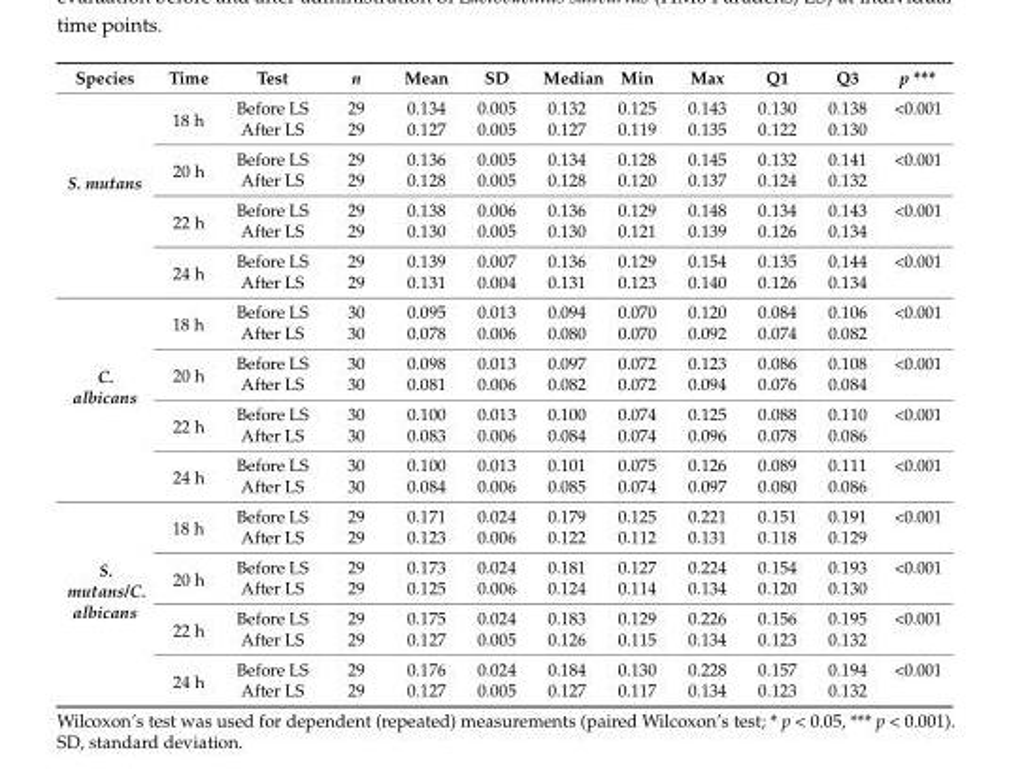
<table><thead><tr><td>Species</td><td>Time</td><td>Test</td><td>n</td><td>Mean</td><td>SD</td><td>Median</td><td>Min</td><td>Max</td><td>Q1</td><td>Q3</td><td>p ***</td></tr></thead><tbody><tr><td rowspan="8">S. mutans</td><td rowspan="2">18 h</td><td>Before LS</td><td>29</td><td>0.134</td><td>0.005</td><td>0.132</td><td>0.125</td><td>0.143</td><td>0.130</td><td>0.138</td><td>&lt;0.001</td></tr><tr><td>After LS</td><td>29</td><td>0.127</td><td>0.005</td><td>0.127</td><td>0.119</td><td>0.135</td><td>0.122</td><td>0.130</td><td></td></tr><tr><td rowspan="2">20 h</td><td>Before LS</td><td>29</td><td>0.136</td><td>0.005</td><td>0.134</td><td>0.128</td><td>0.145</td><td>0.132</td><td>0.141</td><td>&lt;0.001</td></tr><tr><td>After LS</td><td>29</td><td>0.128</td><td>0.005</td><td>0.128</td><td>0.120</td><td>0.137</td><td>0.124</td><td>0.132</td><td></td></tr><tr><td rowspan="2">22 h</td><td>Before LS</td><td>29</td><td>0.138</td><td>0.006</td><td>0.136</td><td>0.129</td><td>0.148</td><td>0.134</td><td>0.143</td><td>&lt;0.001</td></tr><tr><td>After LS</td><td>29</td><td>0.130</td><td>0.005</td><td>0.130</td><td>0.121</td><td>0.139</td><td>0.126</td><td>0.134</td><td></td></tr><tr><td rowspan="2">24 h</td><td>Before LS</td><td>29</td><td>0.139</td><td>0.007</td><td>0.136</td><td>0.129</td><td>0.154</td><td>0.135</td><td>0.144</td><td>&lt;0.001</td></tr><tr><td>After LS</td><td>29</td><td>0.131</td><td>0.004</td><td>0.131</td><td>0.123</td><td>0.140</td><td>0.126</td><td>0.134</td><td></td></tr><tr><td rowspan="8">C. albicans</td><td rowspan="2">18 h</td><td>Before LS</td><td>30</td><td>0.095</td><td>0.013</td><td>0.094</td><td>0.070</td><td>0.120</td><td>0.084</td><td>0.106</td><td>&lt;0.001</td></tr><tr><td>After LS</td><td>30</td><td>0.078</td><td>0.006</td><td>0.080</td><td>0.070</td><td>0.092</td><td>0.074</td><td>0.082</td><td></td></tr><tr><td rowspan="2">20 h</td><td>Before LS</td><td>30</td><td>0.098</td><td>0.013</td><td>0.097</td><td>0.072</td><td>0.123</td><td>0.086</td><td>0.108</td><td>&lt;0.001</td></tr><tr><td>After LS</td><td>30</td><td>0.081</td><td>0.006</td><td>0.082</td><td>0.072</td><td>0.094</td><td>0.076</td><td>0.084</td><td></td></tr><tr><td rowspan="2">22 h</td><td>Before LS</td><td>30</td><td>0.100</td><td>0.013</td><td>0.100</td><td>0.074</td><td>0.125</td><td>0.088</td><td>0.110</td><td>&lt;0.001</td></tr><tr><td>After LS</td><td>30</td><td>0.083</td><td>0.006</td><td>0.084</td><td>0.074</td><td>0.096</td><td>0.078</td><td>0.086</td><td></td></tr><tr><td rowspan="2">24 h</td><td>Before LS</td><td>30</td><td>0.100</td><td>0.013</td><td>0.101</td><td>0.075</td><td>0.126</td><td>0.089</td><td>0.111</td><td>&lt;0.001</td></tr><tr><td>After LS</td><td>30</td><td>0.084</td><td>0.006</td><td>0.085</td><td>0.074</td><td>0.097</td><td>0.080</td><td>0.086</td><td></td></tr><tr><td rowspan="8">S. mutans/C. albicans</td><td rowspan="2">18 h</td><td>Before LS</td><td>29</td><td>0.171</td><td>0.024</td><td>0.179</td><td>0.125</td><td>0.221</td><td>0.151</td><td>0.191</td><td>&lt;0.001</td></tr><tr><td>After LS</td><td>29</td><td>0.123</td><td>0.006</td><td>0.122</td><td>0.112</td><td>0.131</td><td>0.118</td><td>0.129</td><td></td></tr><tr><td rowspan="2">20 h</td><td>Before LS</td><td>29</td><td>0.173</td><td>0.024</td><td>0.181</td><td>0.127</td><td>0.224</td><td>0.154</td><td>0.193</td><td>&lt;0.001</td></tr><tr><td>After LS</td><td>29</td><td>0.125</td><td>0.006</td><td>0.124</td><td>0.114</td><td>0.134</td><td>0.120</td><td>0.130</td><td></td></tr><tr><td rowspan="2">22 h</td><td>Before LS</td><td>29</td><td>0.175</td><td>0.024</td><td>0.183</td><td>0.129</td><td>0.226</td><td>0.156</td><td>0.195</td><td>&lt;0.001</td></tr><tr><td>After LS</td><td>29</td><td>0.127</td><td>0.005</td><td>0.126</td><td>0.115</td><td>0.134</td><td>0.123</td><td>0.132</td><td></td></tr><tr><td rowspan="2">24 h</td><td>Before LS</td><td>29</td><td>0.176</td><td>0.024</td><td>0.184</td><td>0.130</td><td>0.228</td><td>0.157</td><td>0.194</td><td>&lt;0.001</td></tr><tr><td>After LS</td><td>29</td><td>0.127</td><td>0.005</td><td>0.127</td><td>0.117</td><td>0.134</td><td>0.123</td><td>0.132</td><td></td></tr></tbody></table>